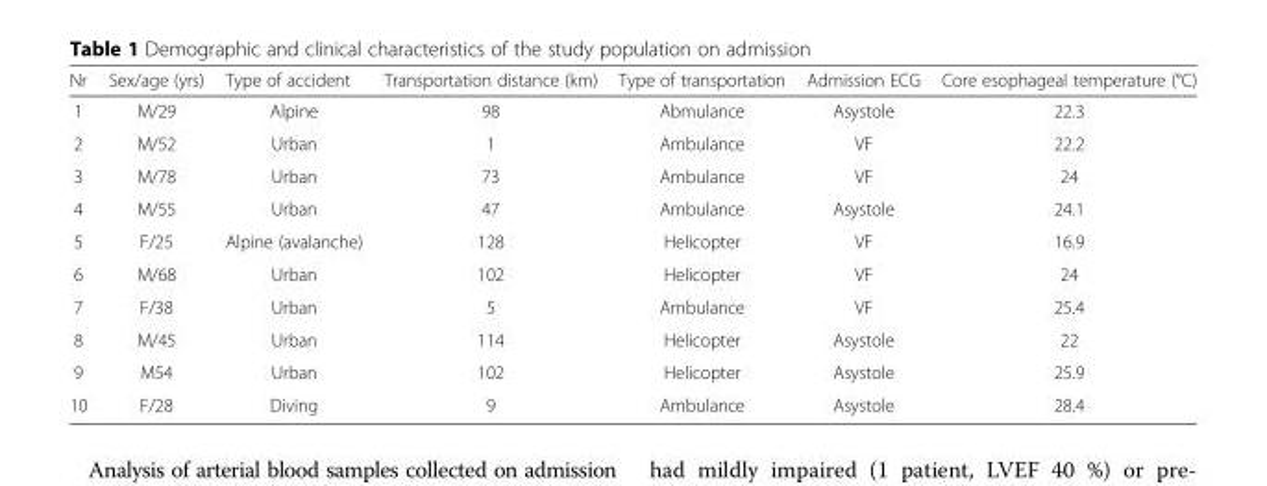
<table><thead><tr><td>Nr</td><td>Sex/age (yrs)</td><td>Type of accident</td><td>Transportation distance (km)</td><td>Type of transportation</td><td>Admission ECG</td><td>Core esophageal temperature (°C)</td></tr></thead><tbody><tr><td>1</td><td>M/29</td><td>Alpine</td><td>98</td><td>Abmulance</td><td>Asystole</td><td>22.3</td></tr><tr><td>2</td><td>M/52</td><td>Urban</td><td>1</td><td>Ambulance</td><td>VF</td><td>22.2</td></tr><tr><td>3</td><td>M/78</td><td>Urban</td><td>73</td><td>Ambulance</td><td>VF</td><td>24</td></tr><tr><td>4</td><td>M/55</td><td>Urban</td><td>47</td><td>Ambulance</td><td>Asystole</td><td>24.1</td></tr><tr><td>5</td><td>F/25</td><td>Alpine (avalanche)</td><td>128</td><td>Helicopter</td><td>VF</td><td>16.9</td></tr><tr><td>6</td><td>M/68</td><td>Urban</td><td>102</td><td>Helicopter</td><td>VF</td><td>24</td></tr><tr><td>7</td><td>F/38</td><td>Urban</td><td>5</td><td>Ambulance</td><td>VF</td><td>25.4</td></tr><tr><td>8</td><td>M/45</td><td>Urban</td><td>114</td><td>Helicopter</td><td>Asystole</td><td>22</td></tr><tr><td>9</td><td>M54</td><td>Urban</td><td>102</td><td>Helicopter</td><td>Asystole</td><td>25.9</td></tr><tr><td>10</td><td>F/28</td><td>Diving</td><td>9</td><td>Ambulance</td><td>Asystole</td><td>28.4</td></tr></tbody></table>